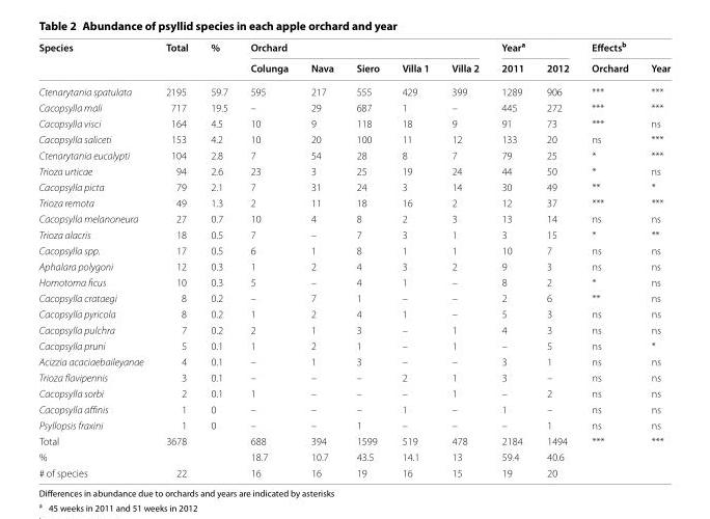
<table><thead><tr><td rowspan="2">Species</td><td rowspan="2">Total</td><td rowspan="2">%</td><td colspan="5">Orchard</td><td colspan="2">Year<sup>a</sup></td><td colspan="2">Effects<sup>b</sup></td></tr><tr><td>Colunga</td><td>Nava</td><td>Siero</td><td>Villa 1</td><td>Villa 2</td><td>2011</td><td>2012</td><td>Orchard</td><td>Year</td></tr></thead><tbody><tr><td>Ctenarytania spatulata</td><td>2195</td><td>59.7</td><td>595</td><td>217</td><td>555</td><td>429</td><td>399</td><td>1289</td><td>906</td><td>***</td><td>***</td></tr><tr><td>Cacopsylla mali</td><td>717</td><td>19.5</td><td>–</td><td>29</td><td>687</td><td>1</td><td>–</td><td>445</td><td>272</td><td>***</td><td>***</td></tr><tr><td>Cacopsylla visci</td><td>164</td><td>4.5</td><td>10</td><td>9</td><td>118</td><td>18</td><td>9</td><td>91</td><td>73</td><td>***</td><td>ns</td></tr><tr><td>Cacopsylla saliceti</td><td>153</td><td>4.2</td><td>10</td><td>20</td><td>100</td><td>11</td><td>12</td><td>133</td><td>20</td><td>ns</td><td>***</td></tr><tr><td>Ctenarytania eucalypti</td><td>104</td><td>2.8</td><td>7</td><td>54</td><td>28</td><td>8</td><td>7</td><td>79</td><td>25</td><td>*</td><td>***</td></tr><tr><td>Trioza urticae</td><td>94</td><td>2.6</td><td>23</td><td>3</td><td>25</td><td>19</td><td>24</td><td>44</td><td>50</td><td>*</td><td>ns</td></tr><tr><td>Cacopsylla picta</td><td>79</td><td>2.1</td><td>7</td><td>31</td><td>24</td><td>3</td><td>14</td><td>30</td><td>49</td><td>**</td><td>*</td></tr><tr><td>Trioza remota</td><td>49</td><td>1.3</td><td>2</td><td>11</td><td>18</td><td>16</td><td>2</td><td>12</td><td>37</td><td>***</td><td>***</td></tr><tr><td>Cacopsylla melanoneura</td><td>27</td><td>0.7</td><td>10</td><td>4</td><td>8</td><td>2</td><td>3</td><td>13</td><td>14</td><td>ns</td><td>ns</td></tr><tr><td>Trioza alacris</td><td>18</td><td>0.5</td><td>7</td><td>–</td><td>7</td><td>3</td><td>1</td><td>3</td><td>15</td><td>*</td><td>**</td></tr><tr><td>Cacopsylla spp.</td><td>17</td><td>0.5</td><td>6</td><td>1</td><td>8</td><td>1</td><td>1</td><td>10</td><td>7</td><td>ns</td><td>ns</td></tr><tr><td>Aphalara polygoni</td><td>12</td><td>0.3</td><td>1</td><td>2</td><td>4</td><td>3</td><td>2</td><td>9</td><td>3</td><td>ns</td><td>ns</td></tr><tr><td>Homotoma ficus</td><td>10</td><td>0.3</td><td>5</td><td>–</td><td>4</td><td>1</td><td>–</td><td>8</td><td>2</td><td>*</td><td>ns</td></tr><tr><td>Cacopsylla crataegi</td><td>8</td><td>0.2</td><td>–</td><td>7</td><td>1</td><td>–</td><td>–</td><td>2</td><td>6</td><td>**</td><td>ns</td></tr><tr><td>Cacopsylla pyricola</td><td>8</td><td>0.2</td><td>1</td><td>2</td><td>4</td><td>1</td><td>–</td><td>5</td><td>3</td><td>ns</td><td>ns</td></tr><tr><td>Cacopsylla pulchra</td><td>7</td><td>0.2</td><td>2</td><td>1</td><td>3</td><td>–</td><td>1</td><td>4</td><td>3</td><td>ns</td><td>ns</td></tr><tr><td>Cacopsylla pruni</td><td>5</td><td>0.1</td><td>1</td><td>2</td><td>1</td><td>–</td><td>1</td><td>–</td><td>5</td><td>ns</td><td>*</td></tr><tr><td>Acizzia acaciaebaileyanae</td><td>4</td><td>0.1</td><td>–</td><td>1</td><td>3</td><td>–</td><td>–</td><td>3</td><td>1</td><td>ns</td><td>ns</td></tr><tr><td>Trioza flavipennis</td><td>3</td><td>0.1</td><td>–</td><td>–</td><td>–</td><td>2</td><td>1</td><td>3</td><td>–</td><td>ns</td><td>ns</td></tr><tr><td>Cacopsylla sorbi</td><td>2</td><td>0.1</td><td>1</td><td>–</td><td>–</td><td>–</td><td>1</td><td>–</td><td>2</td><td>ns</td><td>ns</td></tr><tr><td>Cacopsylla affinis</td><td>1</td><td>0</td><td>–</td><td>–</td><td>–</td><td>1</td><td>–</td><td>1</td><td>–</td><td>ns</td><td>ns</td></tr><tr><td>Psyllopsis fraxini</td><td>1</td><td>0</td><td>–</td><td>–</td><td>1</td><td>–</td><td>–</td><td>–</td><td>1</td><td>ns</td><td>ns</td></tr><tr><td>Total</td><td>3678</td><td></td><td>688</td><td>394</td><td>1599</td><td>519</td><td>478</td><td>2184</td><td>1494</td><td>***</td><td>***</td></tr><tr><td>%</td><td></td><td></td><td>18.7</td><td>10.7</td><td>43.5</td><td>14.1</td><td>13</td><td>59.4</td><td>40.6</td><td></td><td></td></tr><tr><td># of species</td><td>22</td><td></td><td>16</td><td>16</td><td>19</td><td>16</td><td>15</td><td>19</td><td>20</td><td></td><td></td></tr></tbody></table>